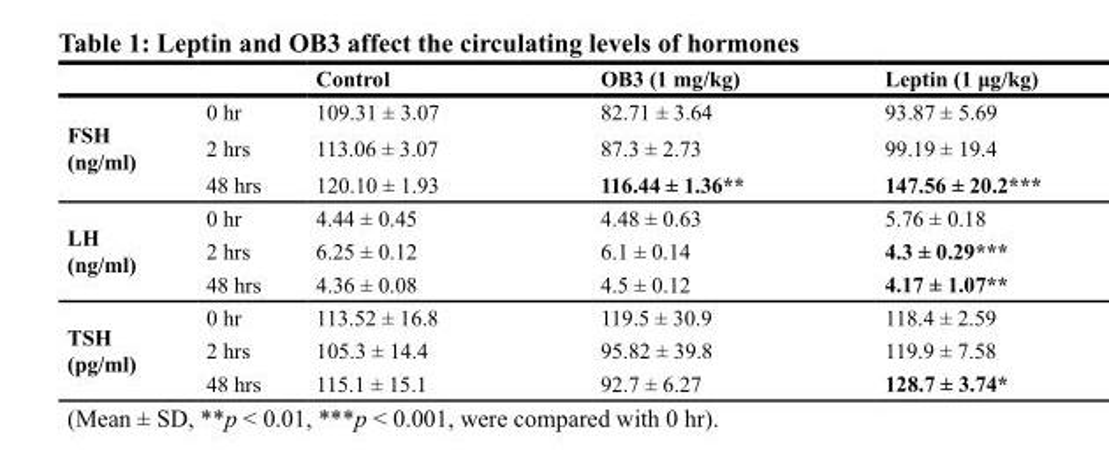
<table><thead><tr><td></td><td></td><td>Control</td><td>OB3 (1 mg/kg)</td><td>Leptin (1 μg/kg)</td></tr></thead><tbody><tr><td rowspan="3">FSH (ng/ml)</td><td>0 hr</td><td>109.31 ± 3.07</td><td>82.71 ± 3.64</td><td>93.87 ± 5.69</td></tr><tr><td>2 hrs</td><td>113.06 ± 3.07</td><td>87.3 ± 2.73</td><td>99.19 ± 19.4</td></tr><tr><td>48 hrs</td><td>120.10 ± 1.93</td><td>116.44 ± 1.36**</td><td>147.56 ± 20.2***</td></tr><tr><td rowspan="3">LH (ng/ml)</td><td>0 hr</td><td>4.44 ± 0.45</td><td>4.48 ± 0.63</td><td>5.76 ± 0.18</td></tr><tr><td>2 hrs</td><td>6.25 ± 0.12</td><td>6.1 ± 0.14</td><td>4.3 ± 0.29***</td></tr><tr><td>48 hrs</td><td>4.36 ± 0.08</td><td>4.5 ± 0.12</td><td>4.17 ± 1.07**</td></tr><tr><td rowspan="3">TSH (pg/ml)</td><td>0 hr</td><td>113.52 ± 16.8</td><td>119.5 ± 30.9</td><td>118.4 ± 2.59</td></tr><tr><td>2 hrs</td><td>105.3 ± 14.4</td><td>95.82 ± 39.8</td><td>119.9 ± 7.58</td></tr><tr><td>48 hrs</td><td>115.1 ± 15.1</td><td>92.7 ± 6.27</td><td>128.7 ± 3.74*</td></tr></tbody></table>